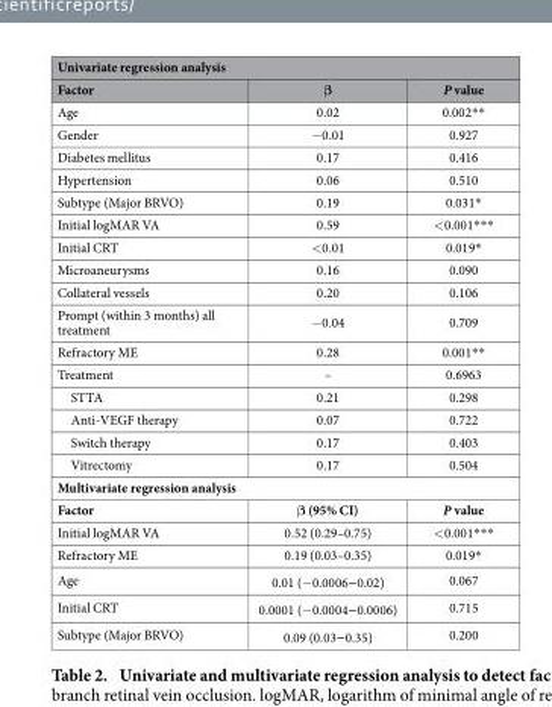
<table><thead><tr><td colspan="3">Univariate regression analysis</td></tr><tr><td>Factor</td><td>β</td><td>P value</td></tr></thead><tbody><tr><td>Age</td><td>0.02</td><td>0.002* *</td></tr><tr><td>Gender</td><td>− 0.01</td><td>0.927</td></tr><tr><td>Diabetes mellitus</td><td>0.17</td><td>0.416</td></tr><tr><td>Hypertension</td><td>0.06</td><td>0.510</td></tr><tr><td>Subtype (Major BRVO)</td><td>0.19</td><td>0.031*</td></tr><tr><td>Initial logMAR VA</td><td>0.59</td><td>&lt; 0.001* * *</td></tr><tr><td>Initial CRT</td><td>&lt; 0.01</td><td>0.019*</td></tr><tr><td>Microaneurysms</td><td>0.16</td><td>0.090</td></tr><tr><td>Collateral vessels</td><td>0.20</td><td>0.106</td></tr><tr><td>Prompt (within 3 months) all treatment</td><td>− 0.04</td><td>0.709</td></tr><tr><td>Refractory ME</td><td>0.28</td><td>0.001* *</td></tr><tr><td>Treatment</td><td>–</td><td>0.6963</td></tr><tr><td>STTA</td><td>0.21</td><td>0.298</td></tr><tr><td>Anti-VEGF therapy</td><td>0.07</td><td>0.722</td></tr><tr><td>Switch therapy</td><td>0.17</td><td>0.403</td></tr><tr><td>Vitrectomy</td><td>0.17</td><td>0.504</td></tr><tr><td colspan="3">Multivariate regression analysis</td></tr><tr><td>Factor</td><td>β (95% CI)</td><td>P value</td></tr><tr><td>Initial logMAR VA</td><td>0.52 (0.29–0.75)</td><td>&lt; 0.001* * *</td></tr><tr><td>Refractory ME</td><td>0.19 (0.03–0.35)</td><td>0.019*</td></tr><tr><td>Age</td><td>0.01 (− 0.0006– 0.02)</td><td>0.067</td></tr><tr><td>Initial CRT</td><td>0.0001 (− 0.0004– 0.0006)</td><td>0.715</td></tr><tr><td>Subtype (Major BRVO)</td><td>0.09 (0.03– 0.35)</td><td>0.200</td></tr></tbody></table>